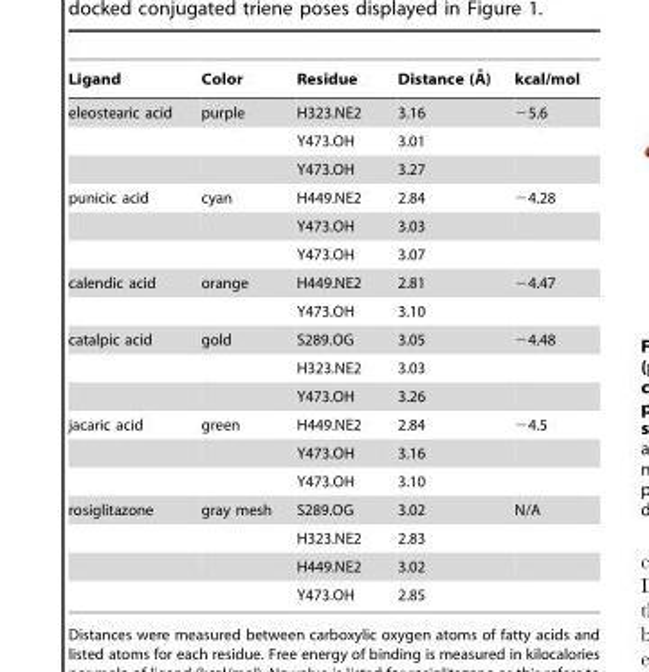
<table><thead><tr><td>Ligand</td><td>Color</td><td>Residue</td><td>Distance (A˚ )</td><td>kcal/mol</td></tr></thead><tbody><tr><td rowspan="3">eleostearic acid</td><td>purple</td><td>H323.NE2</td><td>3.16</td><td>−5.6</td></tr><tr><td></td><td>Y473.OH</td><td>3.01</td><td></td></tr><tr><td></td><td>Y473.OH</td><td>3.27</td><td></td></tr><tr><td rowspan="3">punicic acid</td><td>cyan</td><td>H449.NE2</td><td>2.84</td><td>−4.28</td></tr><tr><td></td><td>Y473.OH</td><td>3.03</td><td></td></tr><tr><td></td><td>Y473.OH</td><td>3.07</td><td></td></tr><tr><td rowspan="2">calendic acid</td><td>orange</td><td>H449.NE2</td><td>2.81</td><td>−4.47</td></tr><tr><td></td><td>Y473.OH</td><td>3.10</td><td></td></tr><tr><td rowspan="3">catalpic acid</td><td>gold</td><td>S289.OG</td><td>3.05</td><td>−4.48</td></tr><tr><td></td><td>H323.NE2</td><td>3.03</td><td></td></tr><tr><td></td><td>Y473.OH</td><td>3.26</td><td></td></tr><tr><td rowspan="3">jacaric acid</td><td>green</td><td>H449.NE2</td><td>2.84</td><td>−4.5</td></tr><tr><td></td><td>Y473.OH</td><td>3.16</td><td></td></tr><tr><td></td><td>Y473.OH</td><td>3.10</td><td></td></tr><tr><td rowspan="4">rosiglitazone</td><td>gray mesh</td><td>S289.OG</td><td>3.02</td><td>N/A</td></tr><tr><td></td><td>H323.NE2</td><td>2.83</td><td></td></tr><tr><td></td><td>H449.NE2</td><td>3.02</td><td></td></tr><tr><td></td><td>Y473.OH</td><td>2.85</td><td></td></tr></tbody></table>